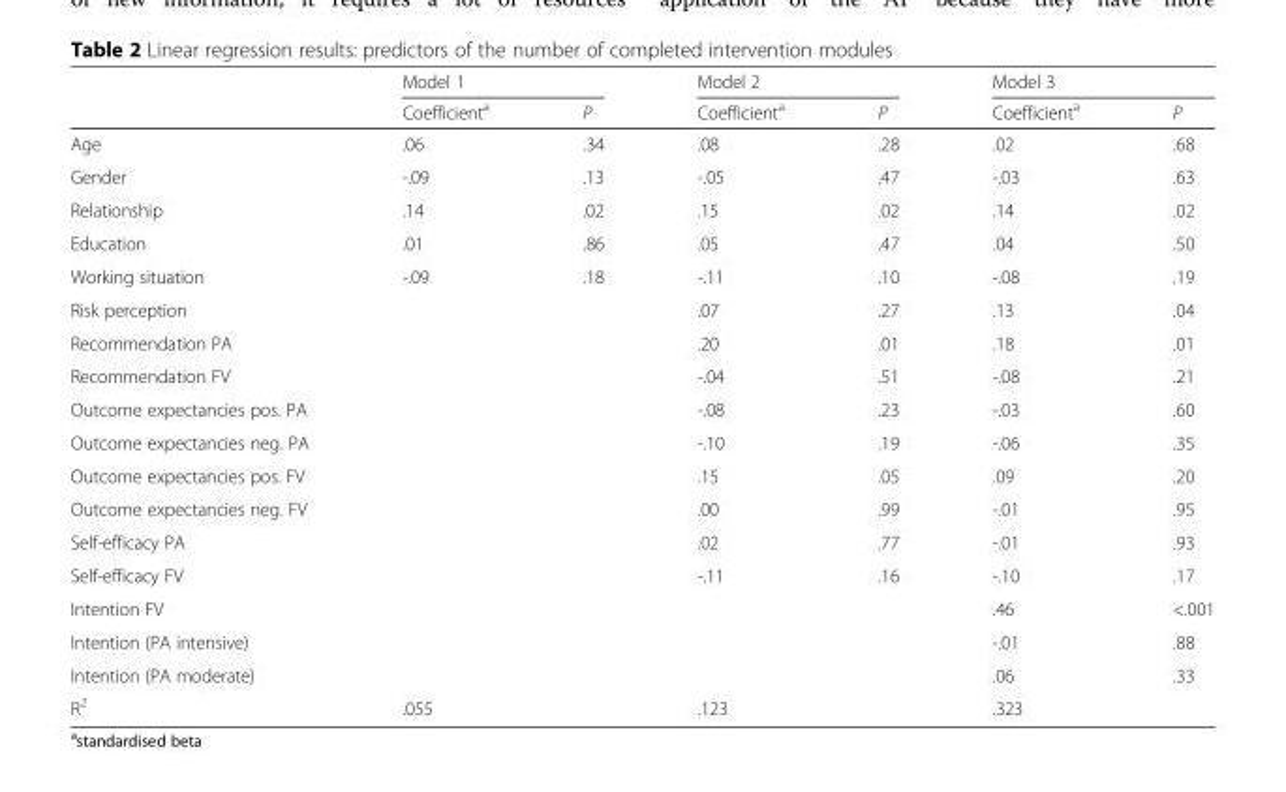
<table><thead><tr><td rowspan="2"></td><td colspan="2">Model 1</td><td colspan="2">Model 2</td><td colspan="2">Model 3</td></tr><tr><td>Coefficient<sup>a</sup></td><td>P</td><td>Coefficient<sup>a</sup></td><td>P</td><td>Coefficient<sup>a</sup></td><td>P</td></tr></thead><tbody><tr><td>Age</td><td>.06</td><td>.34</td><td>.08</td><td>.28</td><td>.02</td><td>.68</td></tr><tr><td>Gender</td><td>-.09</td><td>.13</td><td>-.05</td><td>.47</td><td>-.03</td><td>.63</td></tr><tr><td>Relationship</td><td>.14</td><td>.02</td><td>.15</td><td>.02</td><td>.14</td><td>.02</td></tr><tr><td>Education</td><td>.01</td><td>.86</td><td>.05</td><td>.47</td><td>.04</td><td>.50</td></tr><tr><td>Working situation</td><td>-.09</td><td>.18</td><td>-.11</td><td>.10</td><td>-.08</td><td>.19</td></tr><tr><td>Risk perception</td><td></td><td></td><td>.07</td><td>.27</td><td>.13</td><td>.04</td></tr><tr><td>Recommendation PA</td><td></td><td></td><td>.20</td><td>.01</td><td>.18</td><td>.01</td></tr><tr><td>Recommendation FV</td><td></td><td></td><td>-.04</td><td>.51</td><td>-.08</td><td>.21</td></tr><tr><td>Outcome expectancies pos. PA</td><td></td><td></td><td>-.08</td><td>.23</td><td>-.03</td><td>.60</td></tr><tr><td>Outcome expectancies neg. PA</td><td></td><td></td><td>-.10</td><td>.19</td><td>-.06</td><td>.35</td></tr><tr><td>Outcome expectancies pos. FV</td><td></td><td></td><td>.15</td><td>.05</td><td>.09</td><td>.20</td></tr><tr><td>Outcome expectancies neg. FV</td><td></td><td></td><td>.00</td><td>.99</td><td>-.01</td><td>.95</td></tr><tr><td>Self-efficacy PA</td><td></td><td></td><td>.02</td><td>.77</td><td>-.01</td><td>.93</td></tr><tr><td>Self-efficacy FV</td><td></td><td></td><td>-.11</td><td>.16</td><td>-.10</td><td>.17</td></tr><tr><td>Intention FV</td><td></td><td></td><td></td><td></td><td>.46</td><td>&lt;.001</td></tr><tr><td>Intention (PA intensive)</td><td></td><td></td><td></td><td></td><td>-.01</td><td>.88</td></tr><tr><td>Intention (PA moderate)</td><td></td><td></td><td></td><td></td><td>.06</td><td>.33</td></tr><tr><td>R<sup>2</sup></td><td>.055</td><td></td><td>.123</td><td></td><td>.323</td><td></td></tr></tbody></table>